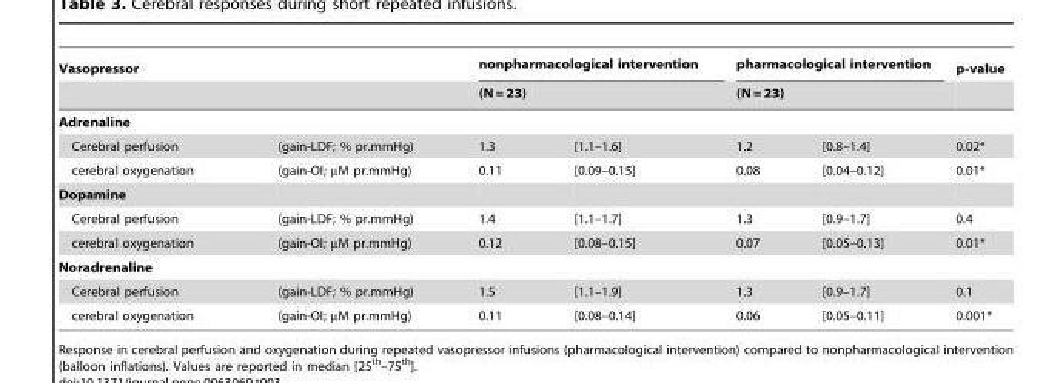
<table><thead><tr><td colspan="2">Vasopressor</td><td rowspan="2" colspan="2">nonpharmacological intervention (N = 23)</td><td rowspan="2" colspan="2">pharmacological intervention (N = 23)</td><td rowspan="3">p-value</td></tr><tr><td></td><td></td></tr><tr><td colspan="2">Adrenaline</td><td></td><td></td><td></td><td></td></tr></thead><tbody><tr><td>Cerebral perfusion</td><td>(gain-LDF; % pr.mmHg)</td><td>1.3</td><td>[1.1–1.6]</td><td>1.2</td><td>[0.8–1.4]</td><td>0.02*</td></tr><tr><td>cerebral oxygenation</td><td>(gain-OI; µM pr.mmHg)</td><td>0.11</td><td>[0.09–0.15]</td><td>0.08</td><td>[0.04–0.12]</td><td>0.01*</td></tr><tr><td colspan="7">Dopamine</td></tr><tr><td>Cerebral perfusion</td><td>(gain-LDF; % pr.mmHg)</td><td>1.4</td><td>[1.1–1.7]</td><td>1.3</td><td>[0.9–1.7]</td><td>0.4</td></tr><tr><td>cerebral oxygenation</td><td>(gain-OI; µM pr.mmHg)</td><td>0.12</td><td>[0.08–0.15]</td><td>0.07</td><td>[0.05–0.13]</td><td>0.01*</td></tr><tr><td colspan="7">Noradrenaline</td></tr><tr><td>Cerebral perfusion</td><td>(gain-LDF; % pr.mmHg)</td><td>1.5</td><td>[1.1–1.9]</td><td>1.3</td><td>[0.9–1.7]</td><td>0.1</td></tr><tr><td>cerebral oxygenation</td><td>(gain-OI; µM pr.mmHg)</td><td>0.11</td><td>[0.08–0.14]</td><td>0.06</td><td>[0.05–0.11]</td><td>0.001*</td></tr></tbody></table>